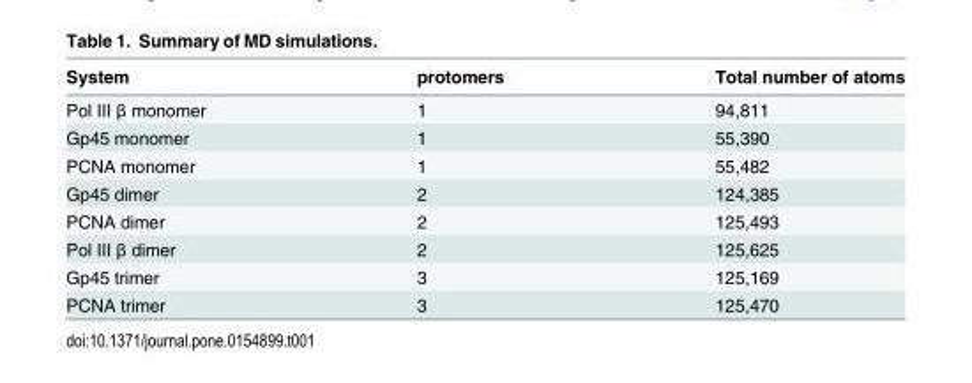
<table><thead><tr><td>System</td><td>protomers</td><td>Total number of atoms</td></tr></thead><tbody><tr><td>Pol III β monomer</td><td>1</td><td>94,811</td></tr><tr><td>Gp45 monomer</td><td>1</td><td>55,390</td></tr><tr><td>PCNA monomer</td><td>1</td><td>55,482</td></tr><tr><td>Gp45 dimer</td><td>2</td><td>124,385</td></tr><tr><td>PCNA dimer</td><td>2</td><td>125,493</td></tr><tr><td>Pol III β dimer</td><td>2</td><td>125,625</td></tr><tr><td>Gp45 trimer</td><td>3</td><td>125,169</td></tr><tr><td>PCNA trimer</td><td>3</td><td>125,470</td></tr></tbody></table>